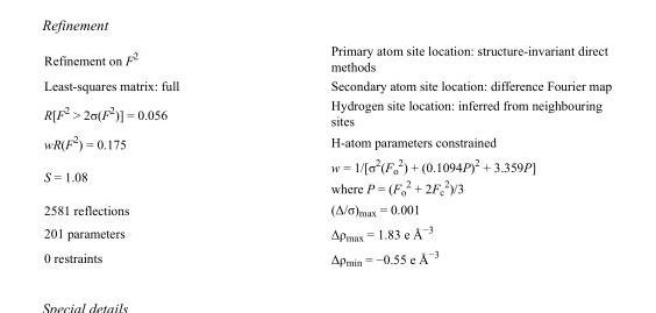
<table><tbody><tr><td>Refinement on F<sup>2</sup></td><td>Primary atom site location: structure-invariant direct methods</td></tr><tr><td>Least-squares matrix: full</td><td>Secondary atom site location: difference Fourier map</td></tr><tr><td>R[F<sup>2</sup> &gt; 2σ(F<sup>2</sup>)] = 0.056</td><td>Hydrogen site location: inferred from neighbouring sites</td></tr><tr><td>wR(F<sup>2</sup>) = 0.175</td><td>H-atom parameters constrained</td></tr><tr><td>S = 1.08</td><td>w = 1/[σ<sup>2</sup>(F<sub>o</sub> <sup>2</sup>) + (0.1094P)<sup>2</sup> + 3.359P] where P = (F<sub>o</sub> <sup>2</sup> + 2F<sub>c</sub> <sup>2</sup>)/3</td></tr><tr><td>2581 reflections</td><td>(Δ/σ)<sub>max</sub> = 0.001</td></tr><tr><td>201 parameters</td><td>Δρ<sub>max</sub> = 1.83 e Å<sup>−3</sup></td></tr><tr><td>0 restraints</td><td>Δρ<sub>min</sub> = −0.55 e Å<sup>−3</sup></td></tr></tbody></table>